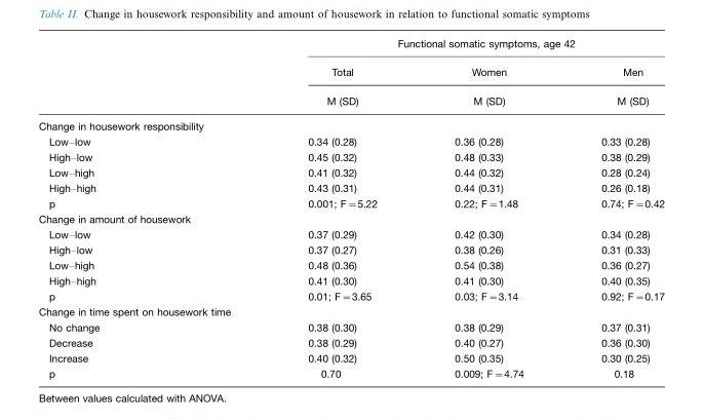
<table><thead><tr><td rowspan="3"></td><td colspan="3">Functional somatic symptoms, age 42</td></tr><tr><td rowspan="2">Total M (SD)</td><td rowspan="2">Women M (SD)</td><td rowspan="2">Men M (SD)</td></tr><tr></tr></thead><tbody><tr><td colspan="4">Change in housework responsibility</td></tr><tr><td>Low–low</td><td>0.34 (0.28)</td><td>0.36 (0.28)</td><td>0.33 (0.28)</td></tr><tr><td>High–low</td><td>0.45 (0.32)</td><td>0.48 (0.33)</td><td>0.38 (0.29)</td></tr><tr><td>Low–high</td><td>0.41 (0.32)</td><td>0.44 (0.32)</td><td>0.28 (0.24)</td></tr><tr><td>High–high</td><td>0.43 (0.31)</td><td>0.44 (0.31)</td><td>0.26 (0.18)</td></tr><tr><td>p</td><td>0.001; F=5.22</td><td>0.22; F=1.48</td><td>0.74; F=0.42</td></tr><tr><td colspan="4">Change in amount of housework</td></tr><tr><td>Low–low</td><td>0.37 (0.29)</td><td>0.42 (0.30)</td><td>0.34 (0.28)</td></tr><tr><td>High–low</td><td>0.37 (0.27)</td><td>0.38 (0.26)</td><td>0.31 (0.33)</td></tr><tr><td>Low–high</td><td>0.48 (0.36)</td><td>0.54 (0.38)</td><td>0.36 (0.27)</td></tr><tr><td>High–high</td><td>0.41 (0.30)</td><td>0.41 (0.30)</td><td>0.40 (0.35)</td></tr><tr><td>p</td><td>0.01; F=3.65</td><td>0.03; F=3.14</td><td>0.92; F=0.17</td></tr><tr><td colspan="4">Change in time spent on housework time</td></tr><tr><td>No change</td><td>0.38 (0.30)</td><td>0.38 (0.29)</td><td>0.37 (0.31)</td></tr><tr><td>Decrease</td><td>0.38 (0.29)</td><td>0.40 (0.27)</td><td>0.36 (0.30)</td></tr><tr><td>Increase</td><td>0.40 (0.32)</td><td>0.50 (0.35)</td><td>0.30 (0.25)</td></tr><tr><td>p</td><td>0.70</td><td>0.009; F=4.74</td><td>0.18</td></tr></tbody></table>